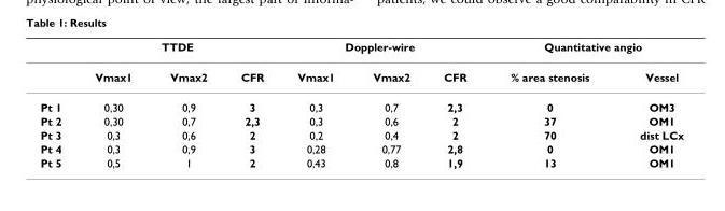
<table><thead><tr><td rowspan="2"></td><td colspan="3">TTDE</td><td colspan="3">Doppler-wire</td><td colspan="2">Quantitative angio</td></tr><tr><td>Vmax1</td><td>Vmax2</td><td>CFR</td><td>Vmax1</td><td>Vmax2</td><td>CFR</td><td>% area stenosis</td><td>Vessel</td></tr></thead><tbody><tr><td>Pt 1</td><td>0,30</td><td>0,9</td><td>3</td><td>0,3</td><td>0,7</td><td>2,3</td><td>0</td><td>OM3</td></tr><tr><td>Pt 2</td><td>0,30</td><td>0,7</td><td>2,3</td><td>0,3</td><td>0,6</td><td>2</td><td>37</td><td>OM1</td></tr><tr><td>Pt 3</td><td>0,3</td><td>0,6</td><td>2</td><td>0,2</td><td>0,4</td><td>2</td><td>70</td><td>dist LCx</td></tr><tr><td>Pt 4</td><td>0,3</td><td>0,9</td><td>3</td><td>0,28</td><td>0,77</td><td>2,8</td><td>0</td><td>OM1</td></tr><tr><td>Pt 5</td><td>0,5</td><td>1</td><td>2</td><td>0,43</td><td>0,8</td><td>1,9</td><td>13</td><td>OM1</td></tr></tbody></table>